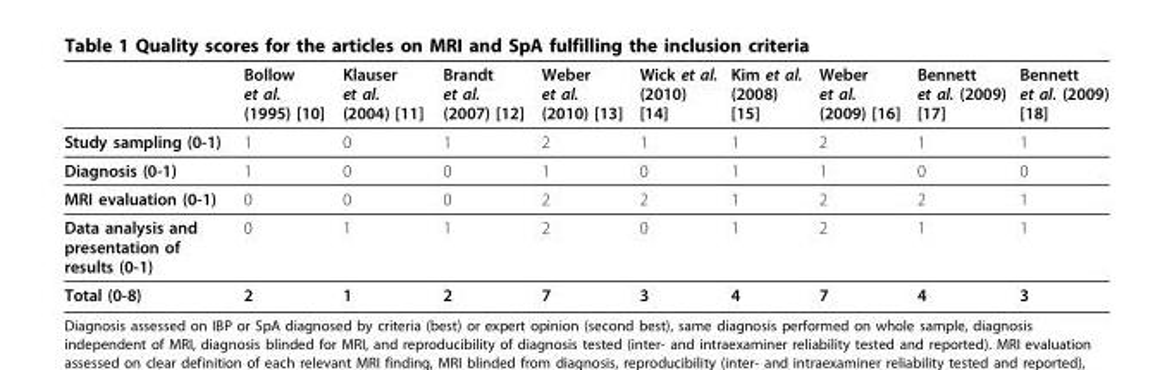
<table><thead><tr><td></td><td>Bollow et al. (1995) [10]</td><td>Klauser et al. (2004) [11]</td><td>Brandt et al. (2007) [12]</td><td>Weber et al. (2010) [13]</td><td>Wick et al. (2010) [14]</td><td>Kim et al. (2008) [15]</td><td>Weber et al. (2009) [16]</td><td>Bennett et al. (2009) [17]</td><td>Bennett et al. (2009) [18]</td></tr></thead><tbody><tr><td>Study sampling (0-1)</td><td>1</td><td>0</td><td>1</td><td>2</td><td>1</td><td>1</td><td>2</td><td>1</td><td>1</td></tr><tr><td>Diagnosis (0-1)</td><td>1</td><td>0</td><td>0</td><td>1</td><td>0</td><td>1</td><td>1</td><td>0</td><td>0</td></tr><tr><td>MRI evaluation (0-1)</td><td>0</td><td>0</td><td>0</td><td>2</td><td>2</td><td>1</td><td>2</td><td>2</td><td>1</td></tr><tr><td>Data analysis and presentation of results (0-1)</td><td>0</td><td>1</td><td>1</td><td>2</td><td>0</td><td>1</td><td>2</td><td>1</td><td>1</td></tr><tr><td>Total (0-8)</td><td>2</td><td>1</td><td>2</td><td>7</td><td>3</td><td>4</td><td>7</td><td>4</td><td>3</td></tr></tbody></table>